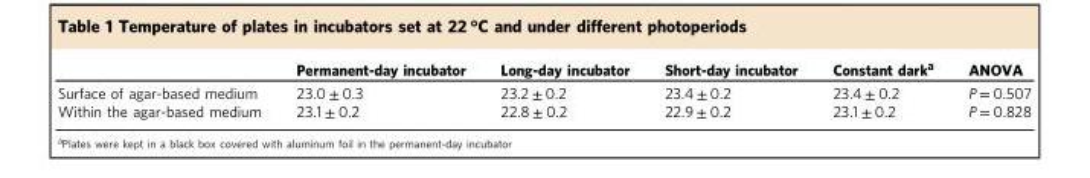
<table><thead><tr><td></td><td>Permanent-day incubator</td><td>Long-day incubator</td><td>Short-day incubator</td><td>Constant dark<sup>a</sup></td><td>ANOVA</td></tr></thead><tbody><tr><td>Surface of agar-based medium</td><td>23.0 ± 0.3</td><td>23.2 ± 0.2</td><td>23.4 ± 0.2</td><td>23.4 ± 0.2</td><td>P = 0.507</td></tr><tr><td>Within the agar-based medium</td><td>23.1 ± 0.2</td><td>22.8 ± 0.2</td><td>22.9 ± 0.2</td><td>23.1 ± 0.2</td><td>P = 0.828</td></tr></tbody></table>